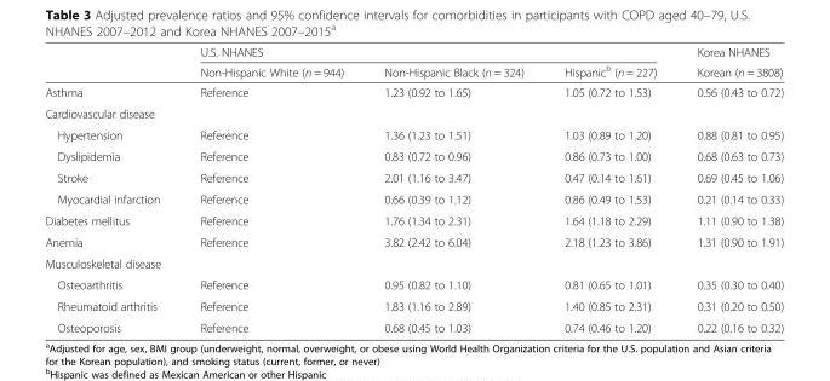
<table><thead><tr><td rowspan="2"></td><td colspan="3">U.S. NHANES</td><td rowspan="2">Korea NHANES Korean (n = 3808)</td></tr><tr><td>Non-Hispanic White (n = 944)</td><td>Non-Hispanic Black (n = 324)</td><td>Hispanic<sup>b</sup> (n = 227)</td></tr></thead><tbody><tr><td>Asthma</td><td>Reference</td><td>1.23 (0.92 to 1.65)</td><td>1.05 (0.72 to 1.53)</td><td>0.56 (0.43 to 0.72)</td></tr><tr><td colspan="5">Cardiovascular disease</td></tr><tr><td>Hypertension</td><td>Reference</td><td>1.36 (1.23 to 1.51)</td><td>1.03 (0.89 to 1.20)</td><td>0.88 (0.81 to 0.95)</td></tr><tr><td>Dyslipidemia</td><td>Reference</td><td>0.83 (0.72 to 0.96)</td><td>0.86 (0.73 to 1.00)</td><td>0.68 (0.63 to 0.73)</td></tr><tr><td>Stroke</td><td>Reference</td><td>2.01 (1.16 to 3.47)</td><td>0.47 (0.14 to 1.61)</td><td>0.69 (0.45 to 1.06)</td></tr><tr><td>Myocardial infarction</td><td>Reference</td><td>0.66 (0.39 to 1.12)</td><td>0.86 (0.49 to 1.53)</td><td>0.21 (0.14 to 0.33)</td></tr><tr><td>Diabetes mellitus</td><td>Reference</td><td>1.76 (1.34 to 2.31)</td><td>1.64 (1.18 to 2.29)</td><td>1.11 (0.90 to 1.38)</td></tr><tr><td>Anemia</td><td>Reference</td><td>3.82 (2.42 to 6.04)</td><td>2.18 (1.23 to 3.86)</td><td>1.31 (0.90 to 1.91)</td></tr><tr><td colspan="5">Musculoskeletal disease</td></tr><tr><td>Osteoarthritis</td><td>Reference</td><td>0.95 (0.82 to 1.10)</td><td>0.81 (0.65 to 1.01)</td><td>0.35 (0.30 to 0.40)</td></tr><tr><td>Rheumatoid arthritis</td><td>Reference</td><td>1.83 (1.16 to 2.89)</td><td>1.40 (0.85 to 2.31)</td><td>0.31 (0.20 to 0.50)</td></tr><tr><td>Osteoporosis</td><td>Reference</td><td>0.68 (0.45 to 1.03)</td><td>0.74 (0.46 to 1.20)</td><td>0.22 (0.16 to 0.32)</td></tr></tbody></table>